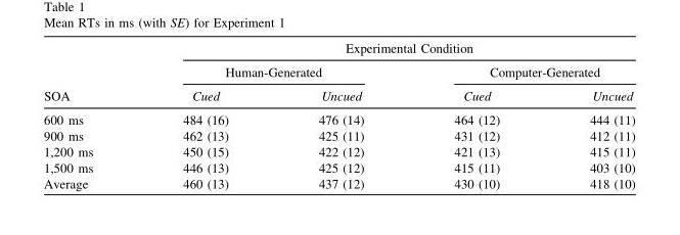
<table><thead><tr><td rowspan="3">SOA</td><td colspan="4">Experimental Condition</td></tr><tr><td colspan="2">Human-Generated</td><td colspan="2">Computer-Generated</td></tr><tr><td>Cued</td><td>Uncued</td><td>Cued</td><td>Uncued</td></tr></thead><tbody><tr><td>600 ms</td><td>484 (16)</td><td>476 (14)</td><td>464 (12)</td><td>444 (11)</td></tr><tr><td>900 ms</td><td>462 (13)</td><td>425 (11)</td><td>431 (12)</td><td>412 (11)</td></tr><tr><td>1,200 ms</td><td>450 (15)</td><td>422 (12)</td><td>421 (13)</td><td>415 (11)</td></tr><tr><td>1,500 ms</td><td>446 (13)</td><td>425 (12)</td><td>415 (11)</td><td>403 (10)</td></tr><tr><td>Average</td><td>460 (13)</td><td>437 (12)</td><td>430 (10)</td><td>418 (10)</td></tr></tbody></table>